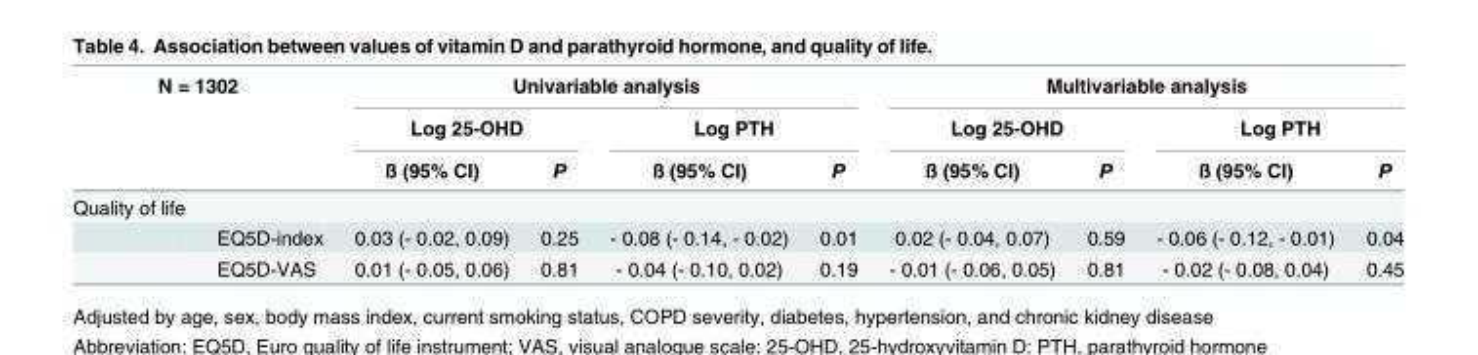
<table><thead><tr><td rowspan="3" colspan="2">N = 1302</td><td colspan="4">Univariable analysis</td><td colspan="4">Multivariable analysis</td></tr><tr><td colspan="2">Log 25-OHD</td><td colspan="2">Log PTH</td><td colspan="2">Log 25-OHD</td><td colspan="2">Log PTH</td></tr><tr><td rowspan="2">ß (95% CI)</td><td rowspan="2">P</td><td rowspan="2">ß (95% CI)</td><td rowspan="2">P</td><td rowspan="2">ß (95% CI)</td><td rowspan="2">P</td><td rowspan="2">ß (95% CI)</td><td rowspan="2">P</td></tr><tr><td>Quality of life</td><td></td></tr></thead><tbody><tr><td></td><td>EQ5D-index</td><td>0.03 (- 0.02, 0.09)</td><td>0.25</td><td>- 0.08 (- 0.14, - 0.02)</td><td>0.01</td><td>0.02 (- 0.04, 0.07)</td><td>0.59</td><td>- 0.06 (- 0.12, - 0.01)</td><td>0.04</td></tr><tr><td></td><td>EQ5D-VAS</td><td>0.01 (- 0.05, 0.06)</td><td>0.81</td><td>- 0.04 (- 0.10, 0.02)</td><td>0.19</td><td>- 0.01 (- 0.06, 0.05)</td><td>0.81</td><td>- 0.02 (- 0.08, 0.04)</td><td>0.45</td></tr></tbody></table>